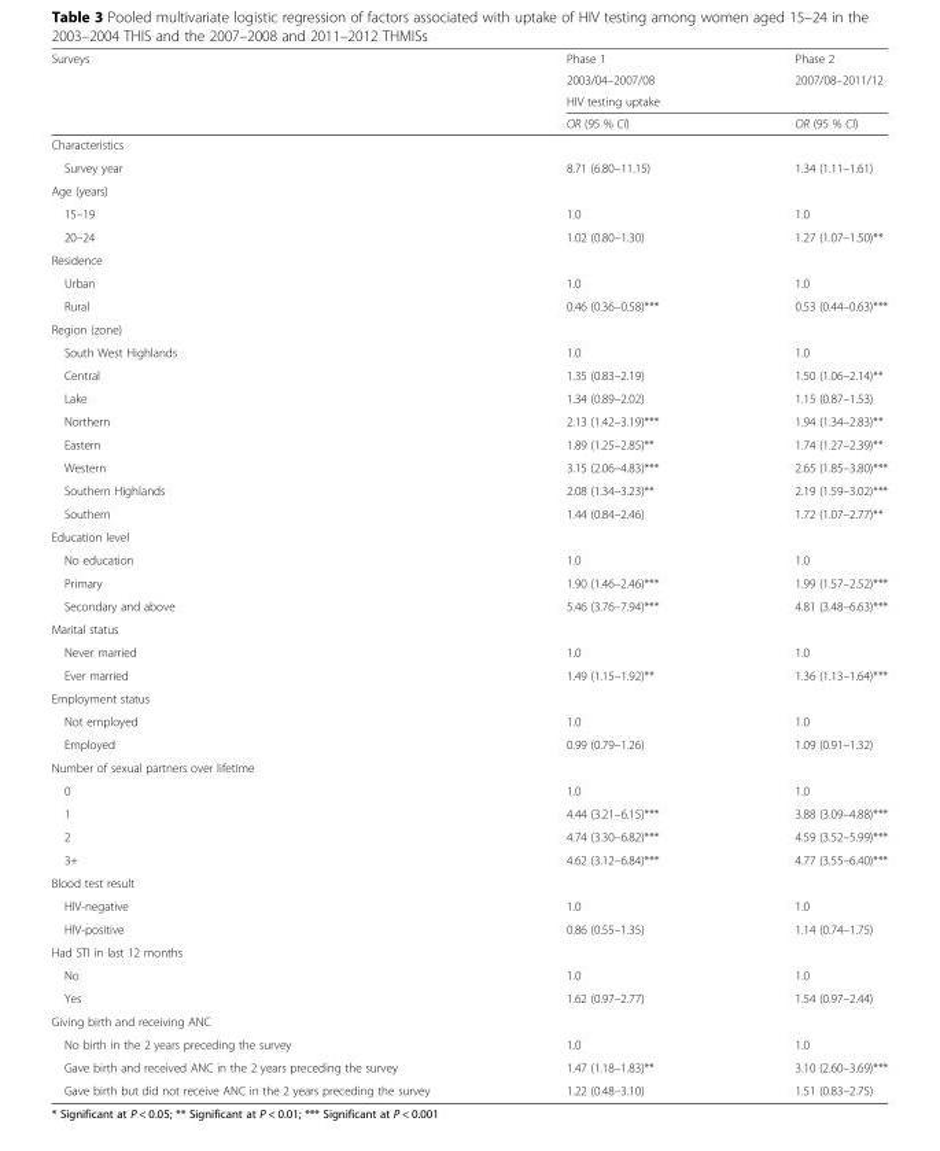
<table><thead><tr><td rowspan="4">Surveys</td><td rowspan="2">Phase 1 2003/04–2007/08</td><td rowspan="2">Phase 2 2007/08–2011/12</td></tr><tr></tr><tr><td colspan="2">HIV testing uptake</td></tr><tr><td>OR (95 % CI)</td><td>OR (95 % CI)</td></tr></thead><tbody><tr><td colspan="3">Characteristics</td></tr><tr><td>Survey year</td><td>8.71 (6.80–11.15)</td><td>1.34 (1.11–1.61)</td></tr><tr><td colspan="3">Age (years)</td></tr><tr><td>15–19</td><td>1.0</td><td>1.0</td></tr><tr><td>20–24</td><td>1.02 (0.80–1.30)</td><td>1.27 (1.07–1.50)**</td></tr><tr><td colspan="3">Residence</td></tr><tr><td>Urban</td><td>1.0</td><td>1.0</td></tr><tr><td>Rural</td><td>0.46 (0.36–0.58)***</td><td>0.53 (0.44–0.63)***</td></tr><tr><td colspan="3">Region (zone)</td></tr><tr><td>South West Highlands</td><td>1.0</td><td>1.0</td></tr><tr><td>Central</td><td>1.35 (0.83–2.19)</td><td>1.50 (1.06–2.14)**</td></tr><tr><td>Lake</td><td>1.34 (0.89–2.02)</td><td>1.15 (0.87–1.53)</td></tr><tr><td>Northern</td><td>2.13 (1.42–3.19)***</td><td>1.94 (1.34–2.83)**</td></tr><tr><td>Eastern</td><td>1.89 (1.25–2.85)**</td><td>1.74 (1.27–2.39)**</td></tr><tr><td>Western</td><td>3.15 (2.06–4.83)***</td><td>2.65 (1.85–3.80)***</td></tr><tr><td>Southern Highlands</td><td>2.08 (1.34–3.23)**</td><td>2.19 (1.59–3.02)***</td></tr><tr><td>Southern</td><td>1.44 (0.84–2.46)</td><td>1.72 (1.07–2.77)**</td></tr><tr><td colspan="3">Education level</td></tr><tr><td>No education</td><td>1.0</td><td>1.0</td></tr><tr><td>Primary</td><td>1.90 (1.46–2.46)***</td><td>1.99 (1.57–2.52)***</td></tr><tr><td>Secondary and above</td><td>5.46 (3.76–7.94)***</td><td>4.81 (3.48–6.63)***</td></tr><tr><td colspan="3">Marital status</td></tr><tr><td>Never married</td><td>1.0</td><td>1.0</td></tr><tr><td>Ever married</td><td>1.49 (1.15–1.92)**</td><td>1.36 (1.13–1.64)***</td></tr><tr><td colspan="3">Employment status</td></tr><tr><td>Not employed</td><td>1.0</td><td>1.0</td></tr><tr><td>Employed</td><td>0.99 (0.79–1.26)</td><td>1.09 (0.91–1.32)</td></tr><tr><td colspan="3">Number of sexual partners over lifetime</td></tr><tr><td>0</td><td>1.0</td><td>1.0</td></tr><tr><td>1</td><td>4.44 (3.21–6.15)***</td><td>3.88 (3.09–4.88)***</td></tr><tr><td>2</td><td>4.74 (3.30–6.82)***</td><td>4.59 (3.52–5.99)***</td></tr><tr><td>3+</td><td>4.62 (3.12–6.84)***</td><td>4.77 (3.55–6.40)***</td></tr><tr><td colspan="3">Blood test result</td></tr><tr><td>HIV-negative</td><td>1.0</td><td>1.0</td></tr><tr><td>HIV-positive</td><td>0.86 (0.55–1.35)</td><td>1.14 (0.74–1.75)</td></tr><tr><td colspan="3">Had STI in last 12 months</td></tr><tr><td>No</td><td>1.0</td><td>1.0</td></tr><tr><td>Yes</td><td>1.62 (0.97–2.77)</td><td>1.54 (0.97–2.44)</td></tr><tr><td colspan="3">Giving birth and receiving ANC</td></tr><tr><td>No birth in the 2 years preceding the survey</td><td>1.0</td><td>1.0</td></tr><tr><td>Gave birth and received ANC in the 2 years preceding the survey</td><td>1.47 (1.18–1.83)**</td><td>3.10 (2.60–3.69)***</td></tr><tr><td>Gave birth but did not receive ANC in the 2 years preceding the survey</td><td>1.22 (0.48–3.10)</td><td>1.51 (0.83–2.75)</td></tr></tbody></table>